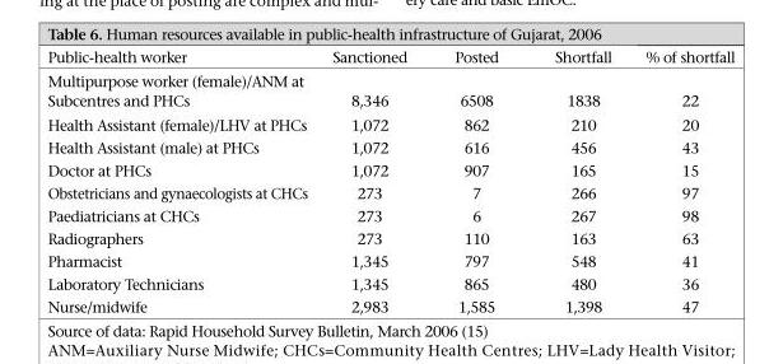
<table><thead><tr><td>Public-health worker</td><td>Sanctioned</td><td>Posted</td><td>Shortfall</td><td>% of shortfall</td></tr></thead><tbody><tr><td>Multipurpose worker (female)/ANM at Subcentres and PHCs</td><td>8,346</td><td>6508</td><td>1838</td><td>22</td></tr><tr><td>Health Assistant (female)/LHV at PHCs</td><td>1,072</td><td>862</td><td>210</td><td>20</td></tr><tr><td>Health Assistant (male) at PHCs</td><td>1,072</td><td>616</td><td>456</td><td>43</td></tr><tr><td>Doctor at PHCs</td><td>1,072</td><td>907</td><td>165</td><td>15</td></tr><tr><td>Obstetricians and gynaecologists at CHCs</td><td>273</td><td>7</td><td>266</td><td>97</td></tr><tr><td>Paediatricians at CHCs</td><td>273</td><td>6</td><td>267</td><td>98</td></tr><tr><td>Radiographers</td><td>273</td><td>110</td><td>163</td><td>63</td></tr><tr><td>Pharmacist</td><td>1,345</td><td>797</td><td>548</td><td>41</td></tr><tr><td>Laboratory Technicians</td><td>1,345</td><td>865</td><td>480</td><td>36</td></tr><tr><td>Nurse/midwife</td><td>2,983</td><td>1,585</td><td>1,398</td><td>47</td></tr></tbody></table>